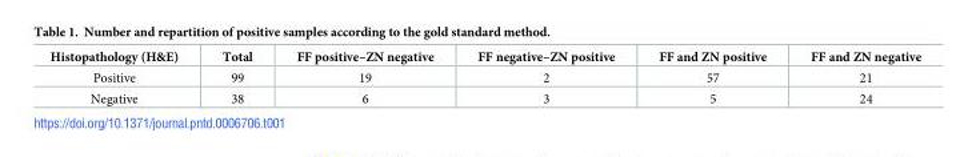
<table><thead><tr><td>Histopathology (H&amp;E)</td><td>Total</td><td>FF positive–ZN negative</td><td>FF negative–ZN positive</td><td>FF and ZN positive</td><td>FF and ZN negative</td></tr></thead><tbody><tr><td>Positive</td><td>99</td><td>19</td><td>2</td><td>57</td><td>21</td></tr><tr><td>Negative</td><td>38</td><td>6</td><td>3</td><td>5</td><td>24</td></tr></tbody></table>